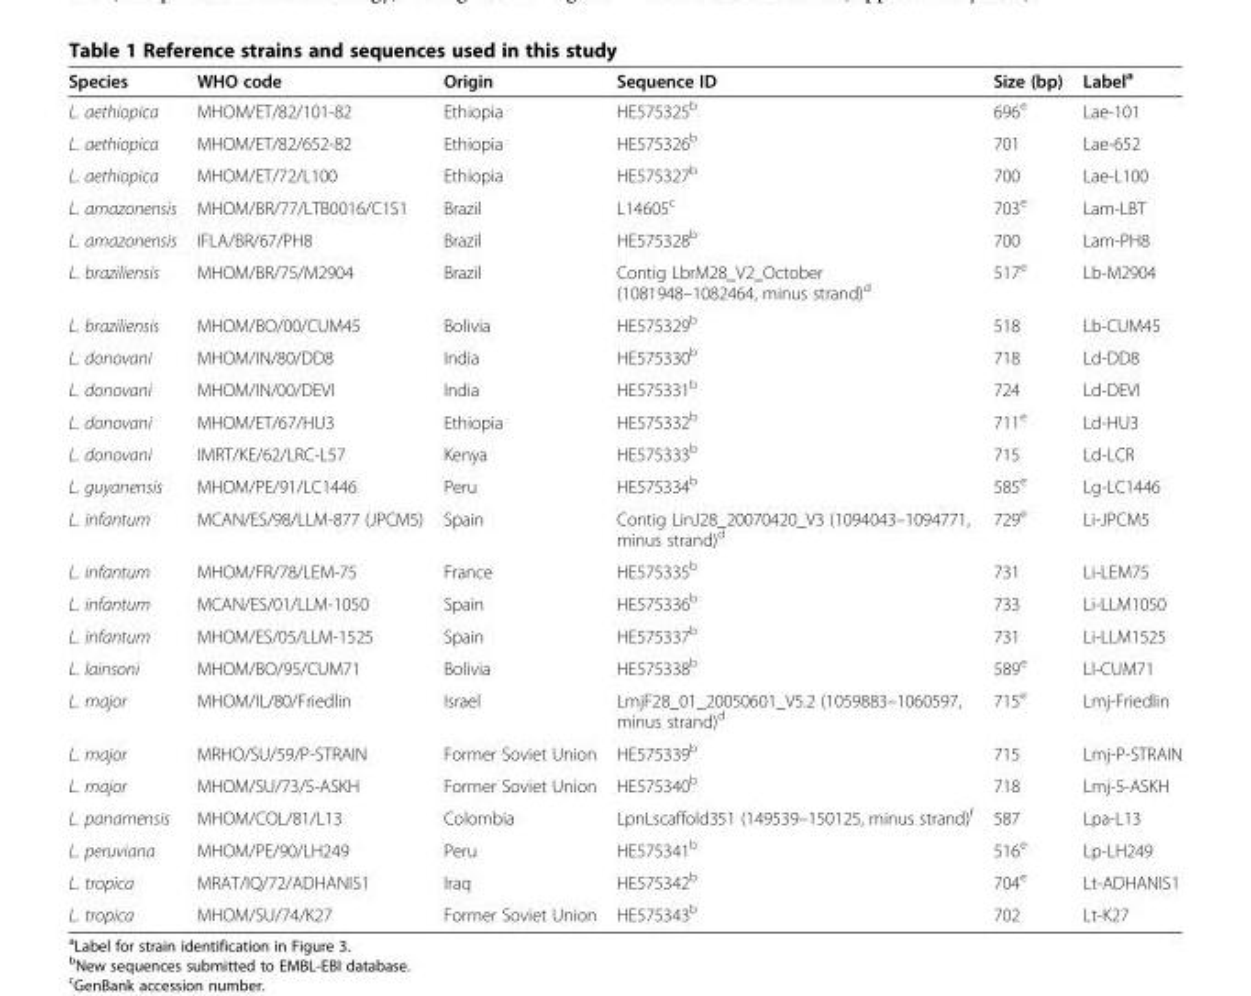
<table><thead><tr><td>Species</td><td>WHO code</td><td>Origin</td><td>Sequence ID</td><td>Size (bp)</td><td>Label<sup>a</sup></td></tr></thead><tbody><tr><td>L. aethiopica</td><td>MHOM/ET/82/101-82</td><td>Ethiopia</td><td>HE575325<sup>b</sup></td><td>696<sup>e</sup></td><td>Lae-101</td></tr><tr><td>L. aethiopica</td><td>MHOM/ET/82/652-82</td><td>Ethiopia</td><td>HE575326<sup>b</sup></td><td>701</td><td>Lae-652</td></tr><tr><td>L. aethiopica</td><td>MHOM/ET/72/L100</td><td>Ethiopia</td><td>HE575327<sup>b</sup></td><td>700</td><td>Lae-L100</td></tr><tr><td>L. amazonensis</td><td>MHOM/BR/77/LTB0016/C1S1</td><td>Brazil</td><td>L14605<sup>c</sup></td><td>703<sup>e</sup></td><td>Lam-LBT</td></tr><tr><td>L. amazonensis</td><td>IFLA/BR/67/PH8</td><td>Brazil</td><td>HE575328<sup>b</sup></td><td>700</td><td>Lam-PH8</td></tr><tr><td>L. braziliensis</td><td>MHOM/BR/75/M2904</td><td>Brazil</td><td>Contig LbrM28_V2_October (1081948–1082464, minus strand)<sup>d</sup></td><td>517<sup>e</sup></td><td>Lb-M2904</td></tr><tr><td>L. braziliensis</td><td>MHOM/BO/00/CUM45</td><td>Bolivia</td><td>HE575329<sup>b</sup></td><td>518</td><td>Lb-CUM45</td></tr><tr><td>L. donovani</td><td>MHOM/IN/80/DD8</td><td>India</td><td>HE575330<sup>b</sup></td><td>718</td><td>Ld-DD8</td></tr><tr><td>L. donovani</td><td>MHOM/IN/00/DEVI</td><td>India</td><td>HE575331<sup>b</sup></td><td>724</td><td>Ld-DEVI</td></tr><tr><td>L. donovani</td><td>MHOM/ET/67/HU3</td><td>Ethiopia</td><td>HE575332<sup>b</sup></td><td>711<sup>e</sup></td><td>Ld-HU3</td></tr><tr><td>L. donovani</td><td>IMRT/KE/62/LRC-L57</td><td>Kenya</td><td>HE575333<sup>b</sup></td><td>715</td><td>Ld-LCR</td></tr><tr><td>L. guyanensis</td><td>MHOM/PE/91/LC1446</td><td>Peru</td><td>HE575334<sup>b</sup></td><td>585<sup>e</sup></td><td>Lg-LC1446</td></tr><tr><td>L. infantum</td><td>MCAN/ES/98/LLM-877 (JPCM5)</td><td>Spain</td><td>Contig LinJ28_20070420_V3 (1094043–1094771, minus strand)<sup>d</sup></td><td>729<sup>e</sup></td><td>Li-JPCM5</td></tr><tr><td>L. infantum</td><td>MHOM/FR/78/LEM-75</td><td>France</td><td>HE575335<sup>b</sup></td><td>731</td><td>Li-LEM75</td></tr><tr><td>L. infantum</td><td>MCAN/ES/01/LLM-1050</td><td>Spain</td><td>HE575336<sup>b</sup></td><td>733</td><td>Li-LLM1050</td></tr><tr><td>L. infantum</td><td>MHOM/ES/05/LLM-1525</td><td>Spain</td><td>HE575337<sup>b</sup></td><td>731</td><td>Li-LLM1525</td></tr><tr><td>L. lainsoni</td><td>MHOM/BO/95/CUM71</td><td>Bolivia</td><td>HE575338<sup>b</sup></td><td>589<sup>e</sup></td><td>Ll-CUM71</td></tr><tr><td>L. major</td><td>MHOM/IL/80/Friedlin</td><td>Israel</td><td>LmjF28_01_20050601_V5.2 (1059883–1060597, minus strand)<sup>d</sup></td><td>715<sup>e</sup></td><td>Lmj-Friedlin</td></tr><tr><td>L. major</td><td>MRHO/SU/59/P-STRAIN</td><td>Former Soviet Union</td><td>HE575339<sup>b</sup></td><td>715</td><td>Lmj-P-STRAIN</td></tr><tr><td>L. major</td><td>MHOM/SU/73/5-ASKH</td><td>Former Soviet Union</td><td>HE575340<sup>b</sup></td><td>718</td><td>Lmj-5-ASKH</td></tr><tr><td>L. panamensis</td><td>MHOM/COL/81/L13</td><td>Colombia</td><td>LpnLscaffold351 (149539–150125, minus strand)<sup>f</sup></td><td>587</td><td>Lpa-L13</td></tr><tr><td>L. peruviana</td><td>MHOM/PE/90/LH249</td><td>Peru</td><td>HE575341<sup>b</sup></td><td>516<sup>e</sup></td><td>Lp-LH249</td></tr><tr><td>L. tropica</td><td>MRAT/IQ/72/ADHANIS1</td><td>Iraq</td><td>HE575342<sup>b</sup></td><td>704<sup>e</sup></td><td>Lt-ADHANIS1</td></tr><tr><td>L. tropica</td><td>MHOM/SU/74/K27</td><td>Former Soviet Union</td><td>HE575343<sup>b</sup></td><td>702</td><td>Lt-K27</td></tr></tbody></table>